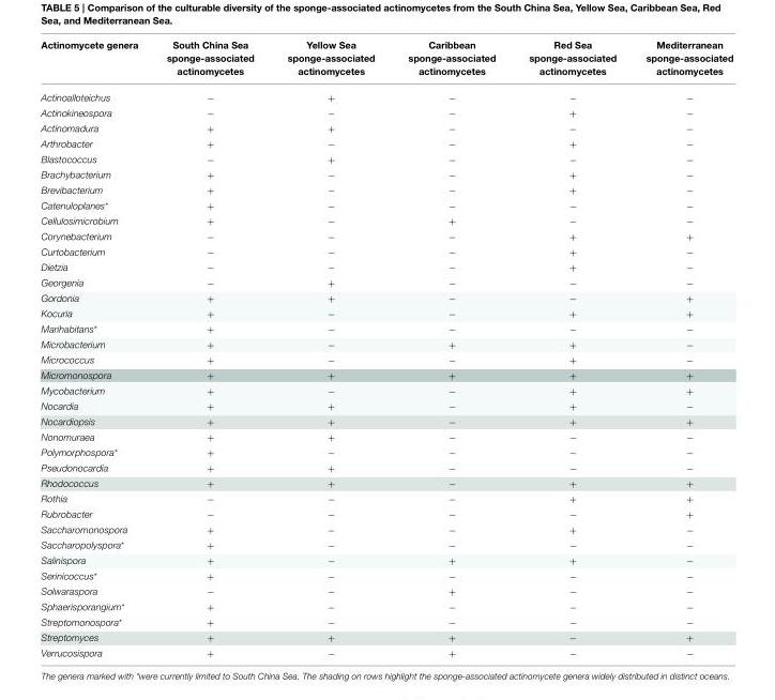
<table><thead><tr><td>Actinomycete genera</td><td>South China Sea sponge-associated actinomycetes</td><td>Yellow Sea sponge-associated actinomycetes</td><td>Caribbean sponge-associated actinomycetes</td><td>Red Sea sponge-associated actinomycetes</td><td>Mediterranean sponge-associated actinomycetes</td></tr></thead><tbody><tr><td>Actinoalloteichus</td><td>−</td><td>+</td><td>−</td><td>−</td><td>−</td></tr><tr><td>Actinokineospora</td><td>−</td><td>−</td><td>−</td><td>+</td><td>−</td></tr><tr><td>Actinomadura</td><td>+</td><td>+</td><td>−</td><td>−</td><td>−</td></tr><tr><td>Arthrobacter</td><td>+</td><td>−</td><td>−</td><td>+</td><td>−</td></tr><tr><td>Blastococcus</td><td>−</td><td>+</td><td>−</td><td>−</td><td>−</td></tr><tr><td>Brachybacterium</td><td>+</td><td>−</td><td>−</td><td>+</td><td>−</td></tr><tr><td>Brevibacterium</td><td>+</td><td>−</td><td>−</td><td>+</td><td>−</td></tr><tr><td>Catenuloplanes*</td><td>+</td><td>−</td><td>−</td><td>−</td><td>−</td></tr><tr><td>Cellulosimicrobium</td><td>+</td><td>−</td><td>+</td><td>−</td><td>−</td></tr><tr><td>Corynebacterium</td><td>−</td><td>−</td><td>−</td><td>+</td><td>+</td></tr><tr><td>Curtobacterium</td><td>−</td><td>−</td><td>−</td><td>+</td><td>−</td></tr><tr><td>Dietzia</td><td>−</td><td>−</td><td>−</td><td>+</td><td>−</td></tr><tr><td>Georgenia</td><td>−</td><td>+</td><td>−</td><td>−</td><td>−</td></tr><tr><td>Gordonia</td><td>+</td><td>+</td><td>−</td><td>−</td><td>+</td></tr><tr><td>Kocuria</td><td>+</td><td>−</td><td>−</td><td>+</td><td>+</td></tr><tr><td>Marihabitans*</td><td>+</td><td>−</td><td>−</td><td>−</td><td>−</td></tr><tr><td>Microbacterium</td><td>+</td><td>−</td><td>+</td><td>+</td><td>−</td></tr><tr><td>Micrococcus</td><td>+</td><td>−</td><td>−</td><td>+</td><td>−</td></tr><tr><td>Micromonospora</td><td>+</td><td>+</td><td>+</td><td>+</td><td>+</td></tr><tr><td>Mycobacterium</td><td>+</td><td>−</td><td>−</td><td>+</td><td>+</td></tr><tr><td>Nocardia</td><td>+</td><td>+</td><td>−</td><td>+</td><td>−</td></tr><tr><td>Nocardiopsis</td><td>+</td><td>+</td><td>−</td><td>+</td><td>+</td></tr><tr><td>Nonomuraea</td><td>+</td><td>+</td><td>−</td><td>−</td><td>−</td></tr><tr><td>Polymorphospora*</td><td>+</td><td>−</td><td>−</td><td>−</td><td>−</td></tr><tr><td>Pseudonocardia</td><td>+</td><td>+</td><td>−</td><td>−</td><td>−</td></tr><tr><td>Rhodococcus</td><td>+</td><td>+</td><td>−</td><td>+</td><td>+</td></tr><tr><td>Rothia</td><td>−</td><td>−</td><td>−</td><td>+</td><td>+</td></tr><tr><td>Rubrobacter</td><td>−</td><td>−</td><td>−</td><td>−</td><td>+</td></tr><tr><td>Saccharomonospora</td><td>+</td><td>−</td><td>−</td><td>+</td><td>−</td></tr><tr><td>Saccharopolyspora*</td><td>+</td><td>−</td><td>−</td><td>−</td><td>−</td></tr><tr><td>Salinispora</td><td>+</td><td>−</td><td>+</td><td>+</td><td>−</td></tr><tr><td>Serinicoccus*</td><td>+</td><td>−</td><td>−</td><td>−</td><td>−</td></tr><tr><td>Solwaraspora</td><td>−</td><td>−</td><td>+</td><td>−</td><td>−</td></tr><tr><td>Sphaerisporangium*</td><td>+</td><td>−</td><td>−</td><td>−</td><td>−</td></tr><tr><td>Streptomonospora*</td><td>+</td><td>−</td><td>−</td><td>−</td><td>−</td></tr><tr><td>Streptomyces</td><td>+</td><td>+</td><td>+</td><td>−</td><td>+</td></tr><tr><td>Verrucosispora</td><td>+</td><td>−</td><td>+</td><td>−</td><td>−</td></tr></tbody></table>